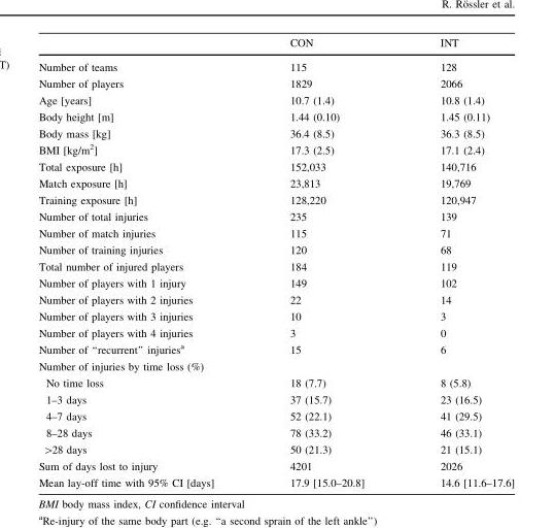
<table><thead><tr><td></td><td>CON</td><td>INT</td></tr></thead><tbody><tr><td>Number of teams</td><td>115</td><td>128</td></tr><tr><td>Number of players</td><td>1829</td><td>2066</td></tr><tr><td>Age [years]</td><td>10.7 (1.4)</td><td>10.8 (1.4)</td></tr><tr><td>Body height [m]</td><td>1.44 (0.10)</td><td>1.45 (0.11)</td></tr><tr><td>Body mass [kg]</td><td>36.4 (8.5)</td><td>36.3 (8.5)</td></tr><tr><td>BMI [kg/m<sup>2</sup>]</td><td>17.3 (2.5)</td><td>17.1 (2.4)</td></tr><tr><td>Total exposure [h]</td><td>152,033</td><td>140,716</td></tr><tr><td>Match exposure [h]</td><td>23,813</td><td>19,769</td></tr><tr><td>Training exposure [h]</td><td>128,220</td><td>120,947</td></tr><tr><td>Number of total injuries</td><td>235</td><td>139</td></tr><tr><td>Number of match injuries</td><td>115</td><td>71</td></tr><tr><td>Number of training injuries</td><td>120</td><td>68</td></tr><tr><td>Total number of injured players</td><td>184</td><td>119</td></tr><tr><td>Number of players with 1 injury</td><td>149</td><td>102</td></tr><tr><td>Number of players with 2 injuries</td><td>22</td><td>14</td></tr><tr><td>Number of players with 3 injuries</td><td>10</td><td>3</td></tr><tr><td>Number of players with 4 injuries</td><td>3</td><td>0</td></tr><tr><td>Number of ‘‘recurrent’’ injuriesa</td><td>15</td><td>6</td></tr><tr><td colspan="3">Number of injuries by time loss (%)</td></tr><tr><td>No time loss</td><td>18 (7.7)</td><td>8 (5.8)</td></tr><tr><td>1–3 days</td><td>37 (15.7)</td><td>23 (16.5)</td></tr><tr><td>4–7 days</td><td>52 (22.1)</td><td>41 (29.5)</td></tr><tr><td>8–28 days</td><td>78 (33.2)</td><td>46 (33.1)</td></tr><tr><td>&gt;28 days</td><td>50 (21.3)</td><td>21 (15.1)</td></tr><tr><td>Sum of days lost to injury Mean lay-off time with 95% CI [days]</td><td>4201 17.9 [15.0–20.8]</td><td>2026 14.6 [11.6–17.6]</td></tr></tbody></table>